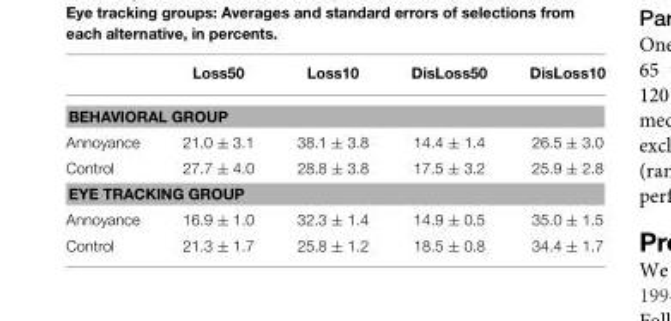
<table><thead><tr><td></td><td>Loss50</td><td>Loss10</td><td>DisLoss50</td><td>DisLoss10</td></tr></thead><tbody><tr><td colspan="5">BEHAVIORAL GROUP</td></tr><tr><td>Annoyance</td><td>21.0 ± 3.1</td><td>38.1 ± 3.8</td><td>14.4 ± 1.4</td><td>26.5 ± 3.0</td></tr><tr><td>Control</td><td>27.7 ± 4.0</td><td>28.8 ± 3.8</td><td>17.5 ± 3.2</td><td>25.9 ± 2.8</td></tr><tr><td colspan="5">EYE TRACKING GROUP</td></tr><tr><td>Annoyance</td><td>16.9 ± 1.0</td><td>32.3 ± 1.4</td><td>14.9 ± 0.5</td><td>35.0 ± 1.5</td></tr><tr><td>Control</td><td>21.3 ± 1.7</td><td>25.8 ± 1.2</td><td>18.5 ± 0.8</td><td>34.4 ± 1.7</td></tr></tbody></table>